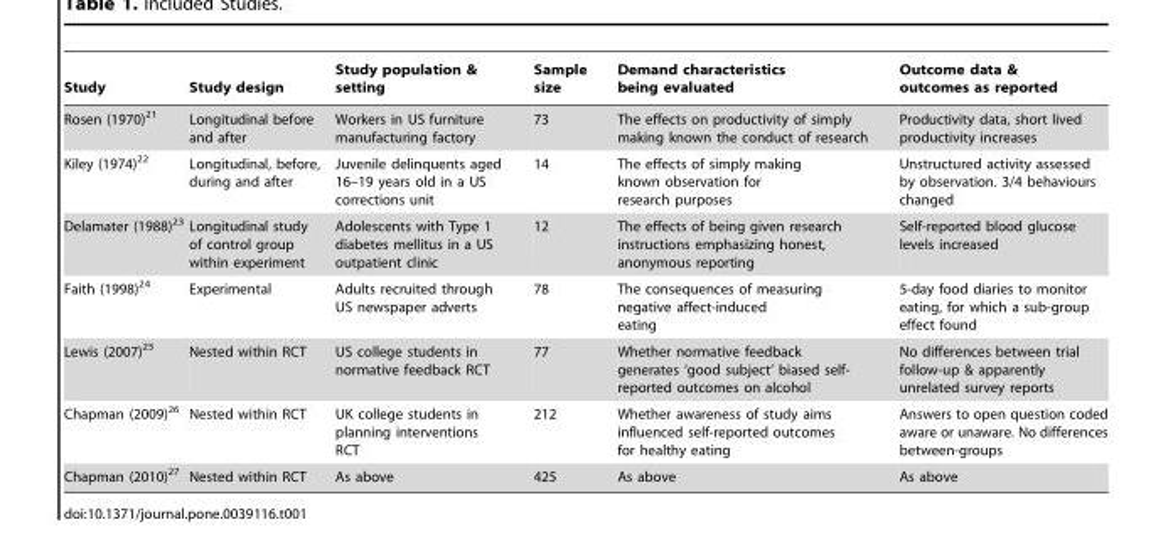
<table><thead><tr><td>Study</td><td>Study design</td><td>Study population &amp; setting</td><td>Sample size</td><td>Demand characteristics being evaluated</td><td>Outcome data &amp; outcomes as reported</td></tr></thead><tbody><tr><td>Rosen (1970)<sup>21</sup></td><td>Longitudinal before and after</td><td>Workers in US furniture manufacturing factory</td><td>73</td><td>The effects on productivity of simply making known the conduct of research</td><td>Productivity data, short lived productivity increases</td></tr><tr><td>Kiley (1974)<sup>22</sup></td><td>Longitudinal, before, during and after</td><td>Juvenile delinquents aged 16–19 years old in a US corrections unit</td><td>14</td><td>The effects of simply making known observation for research purposes</td><td>Unstructured activity assessed by observation. 3/4 behaviours changed</td></tr><tr><td>Delamater (1988)<sup>23</sup></td><td>Longitudinal study of control group within experiment</td><td>Adolescents with Type 1 diabetes mellitus in a US outpatient clinic</td><td>12</td><td>The effects of being given research instructions emphasizing honest, anonymous reporting</td><td>Self-reported blood glucose levels increased</td></tr><tr><td>Faith (1998)<sup>24</sup></td><td>Experimental</td><td>Adults recruited through US newspaper adverts</td><td>78</td><td>The consequences of measuring negative affect-induced eating</td><td>5-day food diaries to monitor eating, for which a sub-group effect found</td></tr><tr><td>Lewis (2007)<sup>25</sup></td><td>Nested within RCT</td><td>US college students in normative feedback RCT</td><td>77</td><td>Whether normative feedback generates ‘good subject’ biased self- reported outcomes on alcohol</td><td>No differences between trial follow-up &amp; apparently unrelated survey reports</td></tr><tr><td>Chapman (2009)<sup>26</sup></td><td>Nested within RCT</td><td>UK college students in planning interventions RCT</td><td>212</td><td>Whether awareness of study aims influenced self-reported outcomes for healthy eating</td><td>Answers to open question coded aware or unaware. No differences between-groups</td></tr><tr><td>Chapman (2010)<sup>27</sup></td><td>Nested within RCT</td><td>As above</td><td>425</td><td>As above</td><td>As above</td></tr></tbody></table>